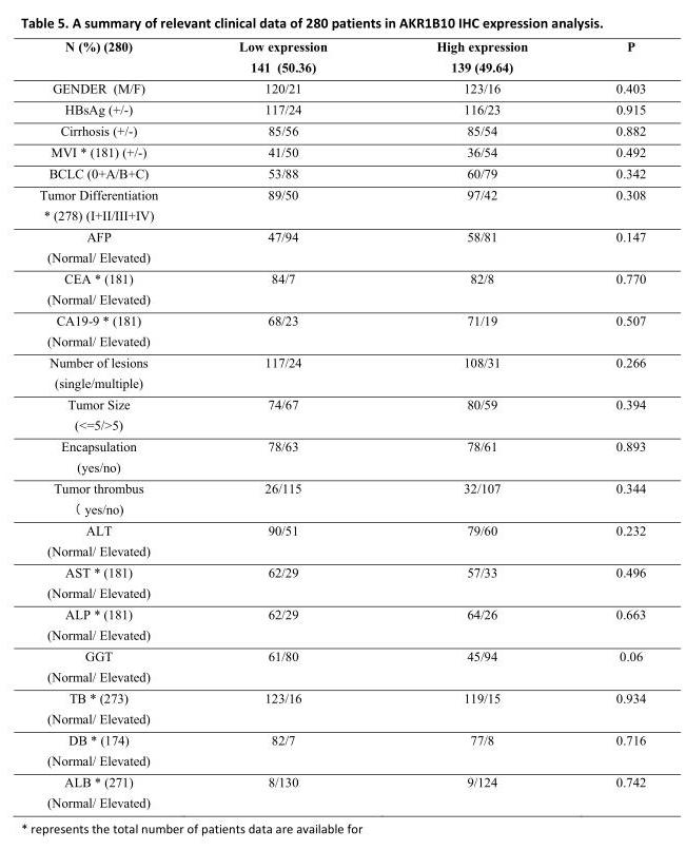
<table><tbody><tr><td>N (%) (280)</td><td>Low expression 141 (50.36)</td><td>High expression 139 (49.64)</td><td>P</td></tr><tr><td>GENDER (M/F)</td><td>120/21</td><td>123/16</td><td>0.403</td></tr><tr><td>HBsAg (+/-)</td><td>117/24</td><td>116/23</td><td>0.915</td></tr><tr><td>Cirrhosis (+/-)</td><td>85/56</td><td>85/54</td><td>0.882</td></tr><tr><td>MVI * (181) (+/-)</td><td>41/50</td><td>36/54</td><td>0.492</td></tr><tr><td>BCLC (0+A/B+C)</td><td>53/88</td><td>60/79</td><td>0.342</td></tr><tr><td>Tumor Differentiation * (278) (I+II/III+IV)</td><td>89/50</td><td>97/42</td><td>0.308</td></tr><tr><td>AFP (Normal/ Elevated)</td><td>47/94</td><td>58/81</td><td>0.147</td></tr><tr><td>CEA * (181) (Normal/ Elevated)</td><td>84/7</td><td>82/8</td><td>0.770</td></tr><tr><td>CA19-9 * (181) (Normal/ Elevated)</td><td>68/23</td><td>71/19</td><td>0.507</td></tr><tr><td>Number of lesions (single/multiple)</td><td>117/24</td><td>108/31</td><td>0.266</td></tr><tr><td>Tumor Size (&lt;=5/&gt;5)</td><td>74/67</td><td>80/59</td><td>0.394</td></tr><tr><td>Encapsulation (yes/no)</td><td>78/63</td><td>78/61</td><td>0.893</td></tr><tr><td>Tumor thrombus （ yes/no)</td><td>26/115</td><td>32/107</td><td>0.344</td></tr><tr><td>ALT (Normal/ Elevated)</td><td>90/51</td><td>79/60</td><td>0.232</td></tr><tr><td>AST * (181) (Normal/ Elevated)</td><td>62/29</td><td>57/33</td><td>0.496</td></tr><tr><td>ALP * (181) (Normal/ Elevated)</td><td>62/29</td><td>64/26</td><td>0.663</td></tr><tr><td>GGT (Normal/ Elevated)</td><td>61/80</td><td>45/94</td><td>0.06</td></tr><tr><td>TB * (273) (Normal/ Elevated)</td><td>123/16</td><td>119/15</td><td>0.934</td></tr><tr><td>DB * (174) (Normal/ Elevated)</td><td>82/7</td><td>77/8</td><td>0.716</td></tr><tr><td>ALB * (271) (Normal/ Elevated)</td><td>8/130</td><td>9/124</td><td>0.742</td></tr></tbody></table>